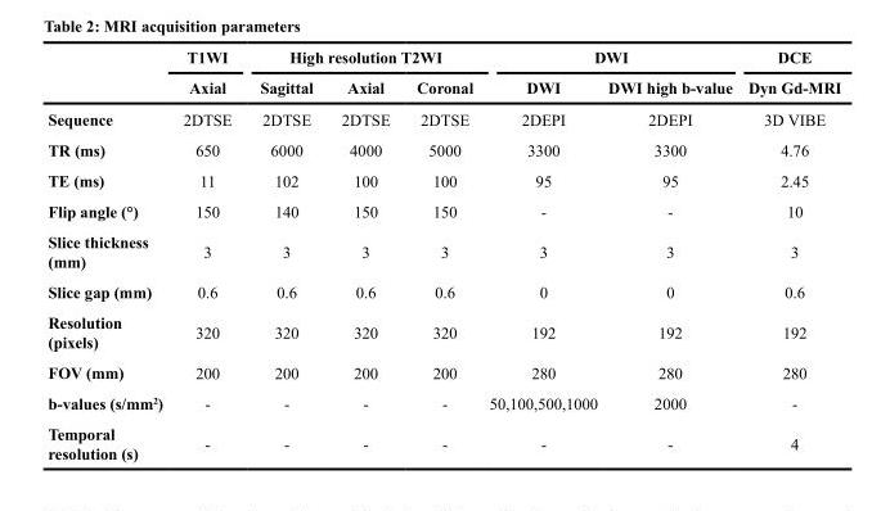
<table><thead><tr><td rowspan="2"></td><td rowspan="2">T1WI Axial</td><td colspan="3">High resolution T2WI</td><td colspan="2">DWI</td><td rowspan="2">DCE Dyn Gd-MRI</td></tr><tr><td>Sagittal</td><td>Axial</td><td>Coronal</td><td>DWI</td><td>DWI high b-value</td></tr></thead><tbody><tr><td>Sequence</td><td>2DTSE</td><td>2DTSE</td><td>2DTSE</td><td>2DTSE</td><td>2DEPI</td><td>2DEPI</td><td>3D VIBE</td></tr><tr><td>TR (ms)</td><td>650</td><td>6000</td><td>4000</td><td>5000</td><td>3300</td><td>3300</td><td>4.76</td></tr><tr><td>TE (ms)</td><td>11</td><td>102</td><td>100</td><td>100</td><td>95</td><td>95</td><td>2.45</td></tr><tr><td>Flip angle (°)</td><td>150</td><td>140</td><td>150</td><td>150</td><td>-</td><td>-</td><td>10</td></tr><tr><td>Slice thickness (mm)</td><td>3</td><td>3</td><td>3</td><td>3</td><td>3</td><td>3</td><td>3</td></tr><tr><td>Slice gap (mm)</td><td>0.6</td><td>0.6</td><td>0.6</td><td>0.6</td><td>0</td><td>0</td><td>0.6</td></tr><tr><td>Resolution (pixels)</td><td>320</td><td>320</td><td>320</td><td>320</td><td>192</td><td>192</td><td>192</td></tr><tr><td>FOV (mm)</td><td>200</td><td>200</td><td>200</td><td>200</td><td>280</td><td>280</td><td>280</td></tr><tr><td>b-values (s/mm<sup>2</sup>)</td><td>-</td><td>-</td><td>-</td><td>-</td><td>50,100,500,1000</td><td>2000</td><td>-</td></tr><tr><td>Temporal resolution (s)</td><td>-</td><td>-</td><td>-</td><td>-</td><td>-</td><td>-</td><td>4</td></tr></tbody></table>